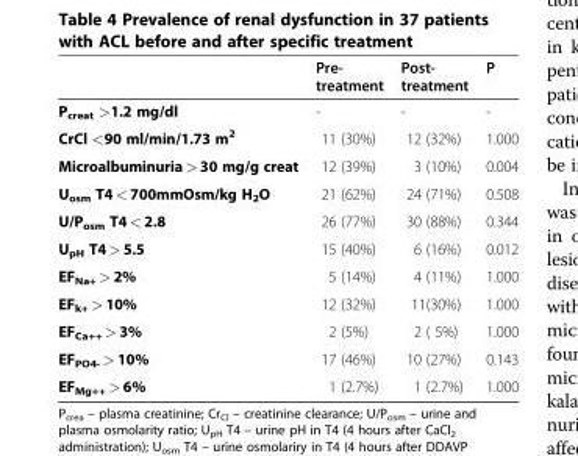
<table><thead><tr><td></td><td>Pre- treatment</td><td>Post- treatment</td><td>P</td></tr></thead><tbody><tr><td>P<sub>creat</sub> &gt;1.2 mg/dl</td><td>-</td><td>-</td><td>-</td></tr><tr><td>CrCl &lt;90 ml/min/1.73 m<sup>2</sup></td><td>11 (30%)</td><td>12 (32%)</td><td>1.000</td></tr><tr><td>Microalbuminuria &gt; 30 mg/g creat</td><td>12 (39%)</td><td>3 (10%)</td><td>0.004</td></tr><tr><td>U<sub>osm</sub> T4 &lt; 700mmOsm/kg H<sub>2</sub>O</td><td>21 (62%)</td><td>24 (71%)</td><td>0.508</td></tr><tr><td>U/P<sub>osm</sub> T4 &lt; 2.8</td><td>26 (77%)</td><td>30 (88%)</td><td>0.344</td></tr><tr><td>U<sub>pH</sub> T4 &gt; 5.5</td><td>15 (40%)</td><td>6 (16%)</td><td>0.012</td></tr><tr><td>EF<sub>Na+</sub> &gt; 2%</td><td>5 (14%)</td><td>4 (11%)</td><td>1.000</td></tr><tr><td>EF<sub>k+</sub> &gt; 10%</td><td>12 (32%)</td><td>11(30%)</td><td>1.000</td></tr><tr><td>EF<sub>Ca++</sub> &gt; 3%</td><td>2 (5%)</td><td>2 ( 5%)</td><td>1.000</td></tr><tr><td>EF<sub>PO4-</sub> &gt; 10%</td><td>17 (46%)</td><td>10 (27%)</td><td>0.143</td></tr><tr><td>EF<sub>Mg++</sub> &gt; 6%</td><td>1 (2.7%)</td><td>1 (2.7%)</td><td>1.000</td></tr></tbody></table>